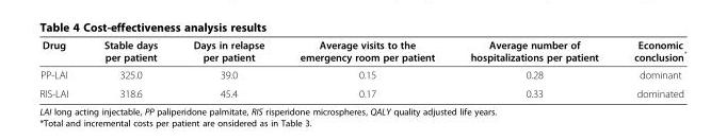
<table><thead><tr><td>Drug</td><td>Stable days per patient</td><td>Days in relapse per patient</td><td>Average visits to the emergency room per patient</td><td>Average number of hospitalizations per patient</td><td>Economic conclusion*</td></tr></thead><tbody><tr><td>PP-LAI</td><td>325.0</td><td>39.0</td><td>0.15</td><td>0.28</td><td>dominant</td></tr><tr><td>RIS-LAI</td><td>318.6</td><td>45.4</td><td>0.17</td><td>0.33</td><td>dominated</td></tr></tbody></table>